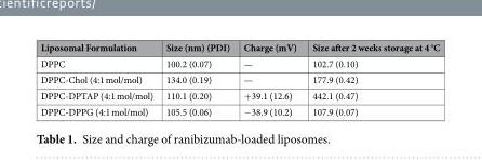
<table><thead><tr><td>Liposomal Formulation</td><td>Size (nm) (PDI)</td><td>Charge (mV)</td><td>Size after 2 weeks storage at 4 °C</td></tr></thead><tbody><tr><td>DPPC</td><td>100.2 (0.07)</td><td>—</td><td>102.7 (0.10)</td></tr><tr><td>DPPC-Chol (4:1 mol/mol)</td><td>134.0 (0.19)</td><td>—</td><td>177.9 (0.42)</td></tr><tr><td>DPPC-DPTAP (4:1 mol/mol)</td><td>110.1 (0.20)</td><td>+39.1 (12.6)</td><td>442.1 (0.47)</td></tr><tr><td>DPPC-DPPG (4:1 mol/mol)</td><td>105.5 (0.06)</td><td>−38.9 (10.2)</td><td>107.9 (0.07)</td></tr></tbody></table>